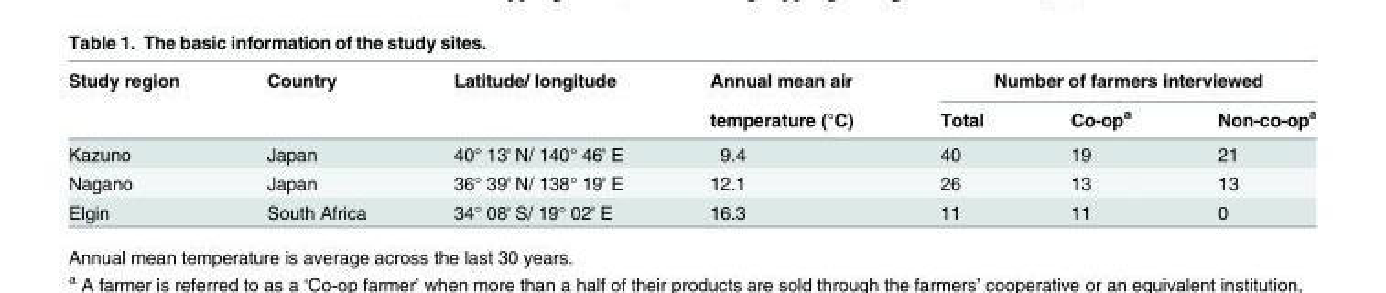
<table><thead><tr><td rowspan="2">Study region</td><td rowspan="2">Country</td><td rowspan="2">Latitude/ longitude</td><td rowspan="2">Annual mean air temperature (°C)</td><td colspan="3">Number of farmers interviewed</td></tr><tr><td>Total</td><td>Co-op<sup>a</sup></td><td>Non-co-op<sup>a</sup></td></tr></thead><tbody><tr><td>Kazuno</td><td>Japan</td><td>40° 13&#x27; N/ 140° 46&#x27; E</td><td>9.4</td><td>40</td><td>19</td><td>21</td></tr><tr><td>Nagano</td><td>Japan</td><td>36° 39&#x27; N/ 138° 19&#x27; E</td><td>12.1</td><td>26</td><td>13</td><td>13</td></tr><tr><td>Elgin</td><td>South Africa</td><td>34° 08&#x27; S/ 19° 02&#x27; E</td><td>16.3</td><td>11</td><td>11</td><td>0</td></tr></tbody></table>